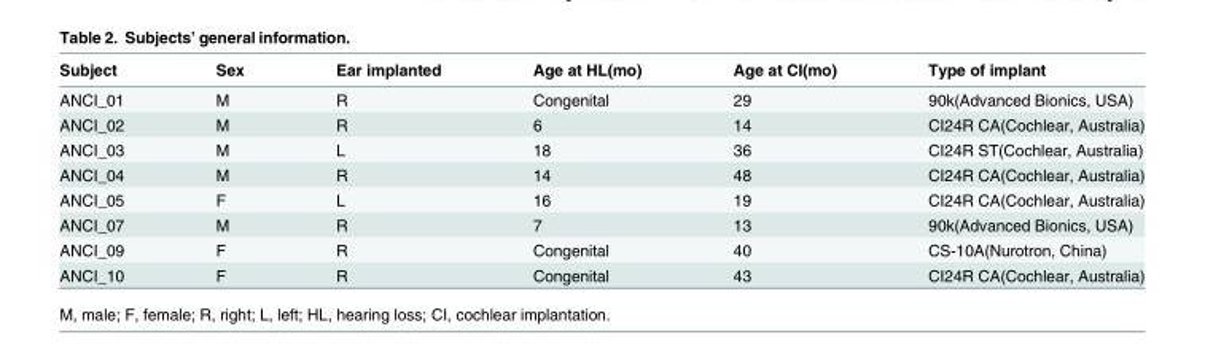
<table><thead><tr><td>Subject</td><td>Sex</td><td>Ear implanted</td><td>Age at HL(mo)</td><td>Age at CI(mo)</td><td>Type of implant</td></tr></thead><tbody><tr><td>ANCI_01</td><td>M</td><td>R</td><td>Congenital</td><td>29</td><td>90k(Advanced Bionics, USA)</td></tr><tr><td>ANCI_02</td><td>M</td><td>R</td><td>6</td><td>14</td><td>CI24R CA(Cochlear, Australia)</td></tr><tr><td>ANCI_03</td><td>M</td><td>L</td><td>18</td><td>36</td><td>CI24R ST(Cochlear, Australia)</td></tr><tr><td>ANCI_04</td><td>M</td><td>R</td><td>14</td><td>48</td><td>CI24R CA(Cochlear, Australia)</td></tr><tr><td>ANCI_05</td><td>F</td><td>L</td><td>16</td><td>19</td><td>CI24R CA(Cochlear, Australia)</td></tr><tr><td>ANCI_07</td><td>M</td><td>R</td><td>7</td><td>13</td><td>90k(Advanced Bionics, USA)</td></tr><tr><td>ANCI_09</td><td>F</td><td>R</td><td>Congenital</td><td>40</td><td>CS-10A(Nurotron, China)</td></tr><tr><td>ANCI_10</td><td>F</td><td>R</td><td>Congenital</td><td>43</td><td>CI24R CA(Cochlear, Australia)</td></tr></tbody></table>